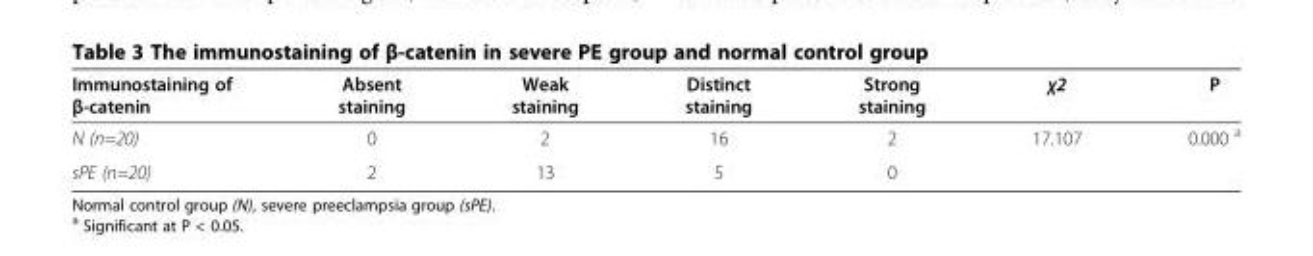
<table><thead><tr><td>Immunostaining of β-catenin</td><td>Absent staining</td><td>Weak staining</td><td>Distinct staining</td><td>Strong staining</td><td>χ2</td><td>P</td></tr></thead><tbody><tr><td>N (n=20)</td><td>0</td><td>2</td><td>16</td><td>2</td><td>17.107</td><td>0.000 <sup>a</sup></td></tr><tr><td>sPE (n=20)</td><td>2</td><td>13</td><td>5</td><td>0</td><td></td><td></td></tr></tbody></table>